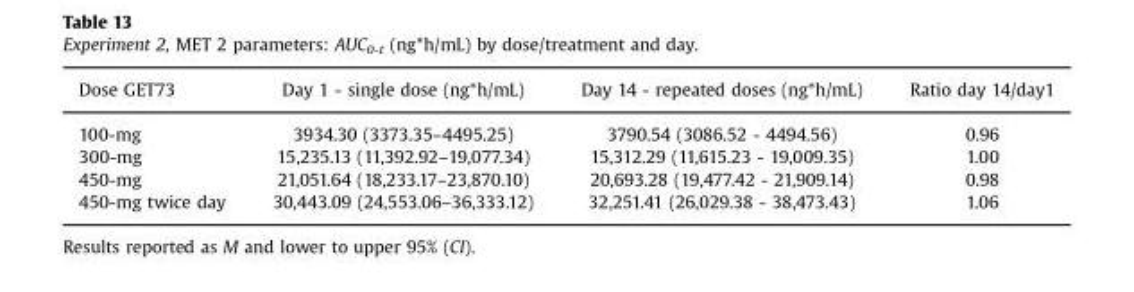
<table><thead><tr><td>Dose GET73</td><td>Day 1 - single dose (ng*h/mL)</td><td>Day 14 - repeated doses (ng*h/mL)</td><td>Ratio day 14/day1</td></tr></thead><tbody><tr><td>100-mg</td><td>3934.30 (3373.35–4495.25)</td><td>3790.54 (3086.52 - 4494.56)</td><td>0.96</td></tr><tr><td>300-mg</td><td>15,235.13 (11,392.92–19,077.34)</td><td>15,312.29 (11,615.23 - 19,009.35)</td><td>1.00</td></tr><tr><td>450-mg</td><td>21,051.64 (18,233.17–23,870.10)</td><td>20,693.28 (19,477.42 - 21,909.14)</td><td>0.98</td></tr><tr><td>450-mg twice day</td><td>30,443.09 (24,553.06–36,333.12)</td><td>32,251.41 (26,029.38 - 38,473.43)</td><td>1.06</td></tr></tbody></table>